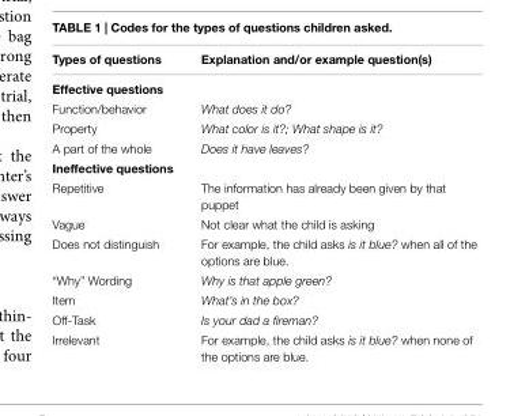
<table><thead><tr><td>Types of questions</td><td>Explanation and/or example question(s)</td></tr></thead><tbody><tr><td colspan="2">Effective questions</td></tr><tr><td>Function/behavior</td><td>What does it do?</td></tr><tr><td>Property</td><td>What color is it?; What shape is it?</td></tr><tr><td>A part of the whole</td><td>Does it have leaves?</td></tr><tr><td colspan="2">Ineffective questions</td></tr><tr><td>Repetitive</td><td>The information has already been given by that puppet</td></tr><tr><td>Vague</td><td>Not clear what the child is asking</td></tr><tr><td>Does not distinguish</td><td>For example, the child asks is it blue? when all of the options are blue.</td></tr><tr><td>“Why” Wording</td><td>Why is that apple green?</td></tr><tr><td>Item</td><td>What’s in the box?</td></tr><tr><td>Off-Task</td><td>Is your dad a fireman?</td></tr><tr><td>Irrelevant</td><td>For example, the child asks is it blue? when none of the options are blue.</td></tr></tbody></table>